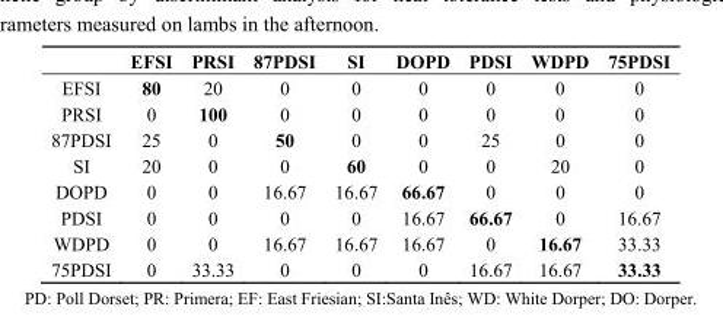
<table><thead><tr><td></td><td>EFSI</td><td>PRSI</td><td>87PDSI</td><td>SI</td><td>DOPD</td><td>PDSI</td><td>WDPD</td><td>75PDSI</td></tr></thead><tbody><tr><td>EFSI</td><td>80</td><td>20</td><td>0</td><td>0</td><td>0</td><td>0</td><td>0</td><td>0</td></tr><tr><td>PRSI</td><td>0</td><td>100</td><td>0</td><td>0</td><td>0</td><td>0</td><td>0</td><td>0</td></tr><tr><td>87PDSI</td><td>25</td><td>0</td><td>50</td><td>0</td><td>0</td><td>25</td><td>0</td><td>0</td></tr><tr><td>SI</td><td>20</td><td>0</td><td>0</td><td>60</td><td>0</td><td>0</td><td>20</td><td>0</td></tr><tr><td>DOPD</td><td>0</td><td>0</td><td>16.67</td><td>16.67</td><td>66.67</td><td>0</td><td>0</td><td>0</td></tr><tr><td>PDSI</td><td>0</td><td>0</td><td>0</td><td>0</td><td>16.67</td><td>66.67</td><td>0</td><td>16.67</td></tr><tr><td>WDPD</td><td>0</td><td>0</td><td>16.67</td><td>16.67</td><td>16.67</td><td>0</td><td>16.67</td><td>33.33</td></tr><tr><td>75PDSI</td><td>0</td><td>33.33</td><td>0</td><td>0</td><td>0</td><td>16.67</td><td>16.67</td><td>33.33</td></tr></tbody></table>